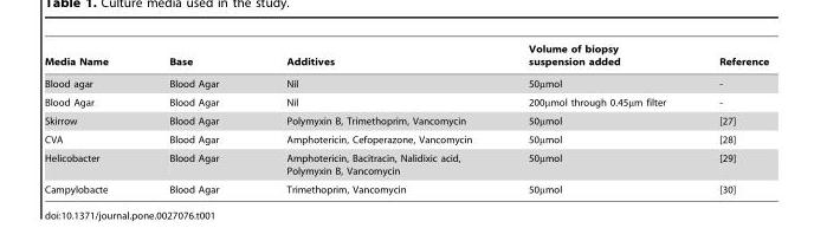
<table><thead><tr><td>Media Name</td><td>Base</td><td>Additives</td><td>Volume of biopsy suspension added</td><td>Reference</td></tr></thead><tbody><tr><td>Blood agar</td><td>Blood Agar</td><td>Nil</td><td>50μmol</td><td>-</td></tr><tr><td>Blood Agar</td><td>Blood Agar</td><td>Nil</td><td>200μmol through 0.45μm filter</td><td>-</td></tr><tr><td>Skirrow</td><td>Blood Agar</td><td>Polymyxin B, Trimethoprim, Vancomycin</td><td>50μmol</td><td>[27]</td></tr><tr><td>CVA</td><td>Blood Agar</td><td>Amphotericin, Cefoperazone, Vancomycin</td><td>50μmol</td><td>[28]</td></tr><tr><td>Helicobacter</td><td>Blood Agar</td><td>Amphotericin, Bacitracin, Nalidixic acid, Polymyxin B, Vancomycin</td><td>50μmol</td><td>[29]</td></tr><tr><td>Campylobacte</td><td>Blood Agar</td><td>Trimethoprim, Vancomycin</td><td>50μmol</td><td>[30]</td></tr></tbody></table>